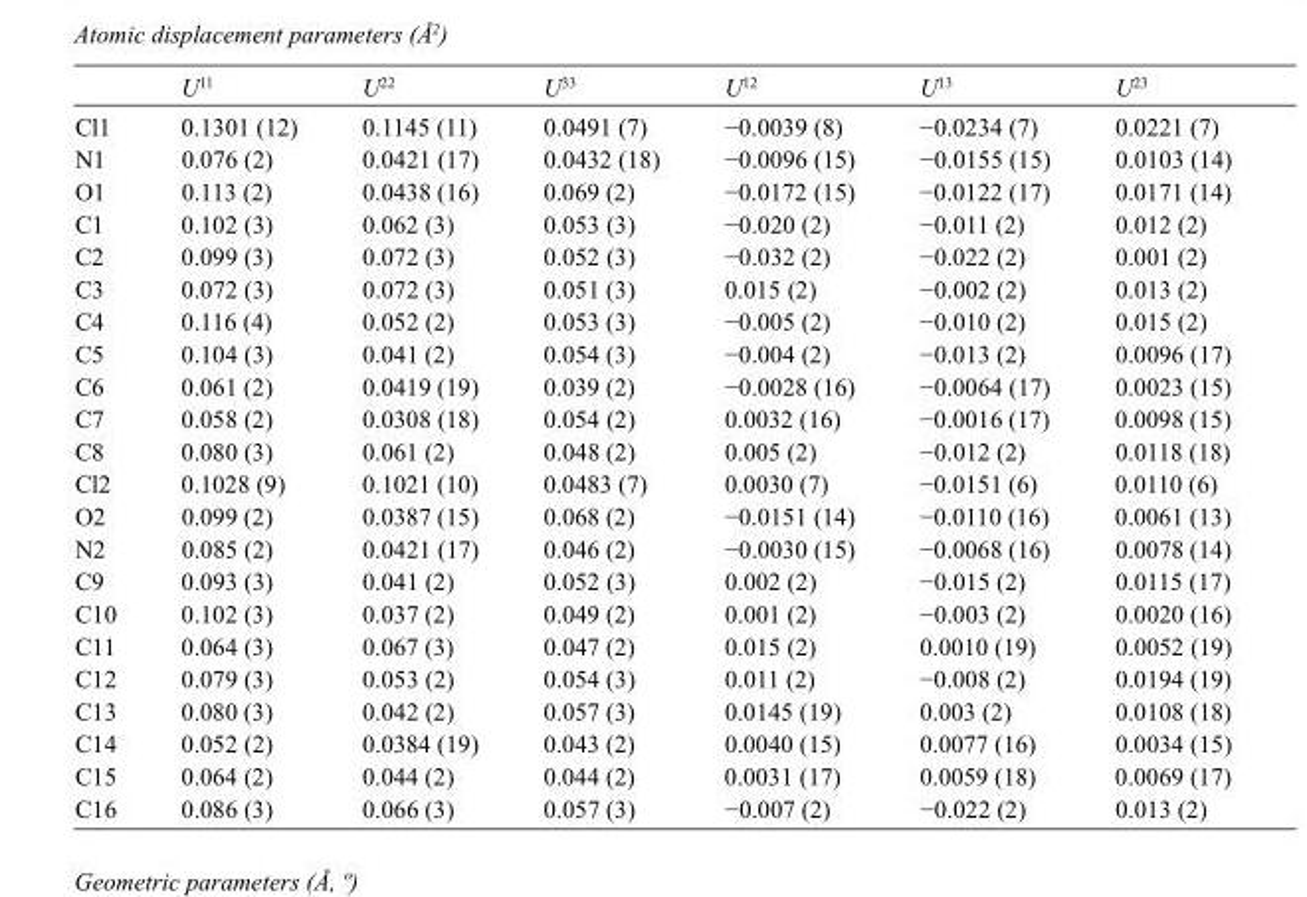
<table><thead><tr><td></td><td>U<sup>11</sup></td><td>U<sup>22</sup></td><td>U<sup>33</sup></td><td>U<sup>12</sup></td><td>U<sup>13</sup></td><td>U<sup>23</sup></td></tr></thead><tbody><tr><td>Cl1</td><td>0.1301 (12)</td><td>0.1145 (11)</td><td>0.0491 (7)</td><td>−0.0039 (8)</td><td>−0.0234 (7)</td><td>0.0221 (7)</td></tr><tr><td>N1</td><td>0.076 (2)</td><td>0.0421 (17)</td><td>0.0432 (18)</td><td>−0.0096 (15)</td><td>−0.0155 (15)</td><td>0.0103 (14)</td></tr><tr><td>O1</td><td>0.113 (2)</td><td>0.0438 (16)</td><td>0.069 (2)</td><td>−0.0172 (15)</td><td>−0.0122 (17)</td><td>0.0171 (14)</td></tr><tr><td>C1</td><td>0.102 (3)</td><td>0.062 (3)</td><td>0.053 (3)</td><td>−0.020 (2)</td><td>−0.011 (2)</td><td>0.012 (2)</td></tr><tr><td>C2</td><td>0.099 (3)</td><td>0.072 (3)</td><td>0.052 (3)</td><td>−0.032 (2)</td><td>−0.022 (2)</td><td>0.001 (2)</td></tr><tr><td>C3</td><td>0.072 (3)</td><td>0.072 (3)</td><td>0.051 (3)</td><td>0.015 (2)</td><td>−0.002 (2)</td><td>0.013 (2)</td></tr><tr><td>C4</td><td>0.116 (4)</td><td>0.052 (2)</td><td>0.053 (3)</td><td>−0.005 (2)</td><td>−0.010 (2)</td><td>0.015 (2)</td></tr><tr><td>C5</td><td>0.104 (3)</td><td>0.041 (2)</td><td>0.054 (3)</td><td>−0.004 (2)</td><td>−0.013 (2)</td><td>0.0096 (17)</td></tr><tr><td>C6</td><td>0.061 (2)</td><td>0.0419 (19)</td><td>0.039 (2)</td><td>−0.0028 (16)</td><td>−0.0064 (17)</td><td>0.0023 (15)</td></tr><tr><td>C7</td><td>0.058 (2)</td><td>0.0308 (18)</td><td>0.054 (2)</td><td>0.0032 (16)</td><td>−0.0016 (17)</td><td>0.0098 (15)</td></tr><tr><td>C8</td><td>0.080 (3)</td><td>0.061 (2)</td><td>0.048 (2)</td><td>0.005 (2)</td><td>−0.012 (2)</td><td>0.0118 (18)</td></tr><tr><td>Cl2</td><td>0.1028 (9)</td><td>0.1021 (10)</td><td>0.0483 (7)</td><td>0.0030 (7)</td><td>−0.0151 (6)</td><td>0.0110 (6)</td></tr><tr><td>O2</td><td>0.099 (2)</td><td>0.0387 (15)</td><td>0.068 (2)</td><td>−0.0151 (14)</td><td>−0.0110 (16)</td><td>0.0061 (13)</td></tr><tr><td>N2</td><td>0.085 (2)</td><td>0.0421 (17)</td><td>0.046 (2)</td><td>−0.0030 (15)</td><td>−0.0068 (16)</td><td>0.0078 (14)</td></tr><tr><td>C9</td><td>0.093 (3)</td><td>0.041 (2)</td><td>0.052 (3)</td><td>0.002 (2)</td><td>−0.015 (2)</td><td>0.0115 (17)</td></tr><tr><td>C10</td><td>0.102 (3)</td><td>0.037 (2)</td><td>0.049 (2)</td><td>0.001 (2)</td><td>−0.003 (2)</td><td>0.0020 (16)</td></tr><tr><td>C11</td><td>0.064 (3)</td><td>0.067 (3)</td><td>0.047 (2)</td><td>0.015 (2)</td><td>0.0010 (19)</td><td>0.0052 (19)</td></tr><tr><td>C12</td><td>0.079 (3)</td><td>0.053 (2)</td><td>0.054 (3)</td><td>0.011 (2)</td><td>−0.008 (2)</td><td>0.0194 (19)</td></tr><tr><td>C13</td><td>0.080 (3)</td><td>0.042 (2)</td><td>0.057 (3)</td><td>0.0145 (19)</td><td>0.003 (2)</td><td>0.0108 (18)</td></tr><tr><td>C14</td><td>0.052 (2)</td><td>0.0384 (19)</td><td>0.043 (2)</td><td>0.0040 (15)</td><td>0.0077 (16)</td><td>0.0034 (15)</td></tr><tr><td>C15</td><td>0.064 (2)</td><td>0.044 (2)</td><td>0.044 (2)</td><td>0.0031 (17)</td><td>0.0059 (18)</td><td>0.0069 (17)</td></tr><tr><td>C16</td><td>0.086 (3)</td><td>0.066 (3)</td><td>0.057 (3)</td><td>−0.007 (2)</td><td>−0.022 (2)</td><td>0.013 (2)</td></tr></tbody></table>